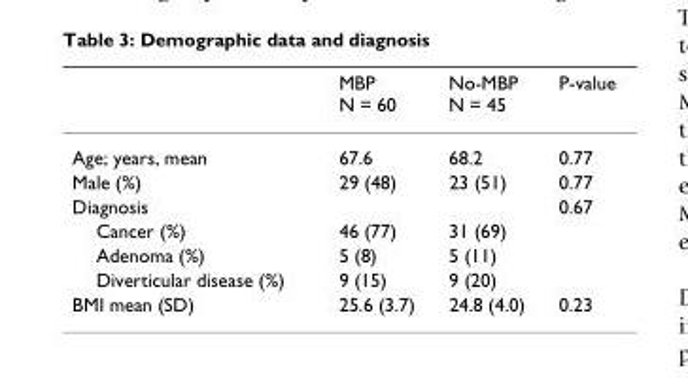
<table><thead><tr><td></td><td>MBP N = 60</td><td>No-MBP N = 45</td><td>P-value</td></tr></thead><tbody><tr><td>Age; years, mean</td><td>67.6</td><td>68.2</td><td>0.77</td></tr><tr><td>Male (%)</td><td>29 (48)</td><td>23 (51)</td><td>0.77</td></tr><tr><td>Diagnosis</td><td></td><td></td><td>0.67</td></tr><tr><td>Cancer (%)</td><td>46 (77)</td><td>31 (69)</td><td></td></tr><tr><td>Adenoma (%)</td><td>5 (8)</td><td>5 (11)</td><td></td></tr><tr><td>Diverticular disease (%)</td><td>9 (15)</td><td>9 (20)</td><td></td></tr><tr><td>BMI mean (SD)</td><td>25.6 (3.7)</td><td>24.8 (4.0)</td><td>0.23</td></tr></tbody></table>